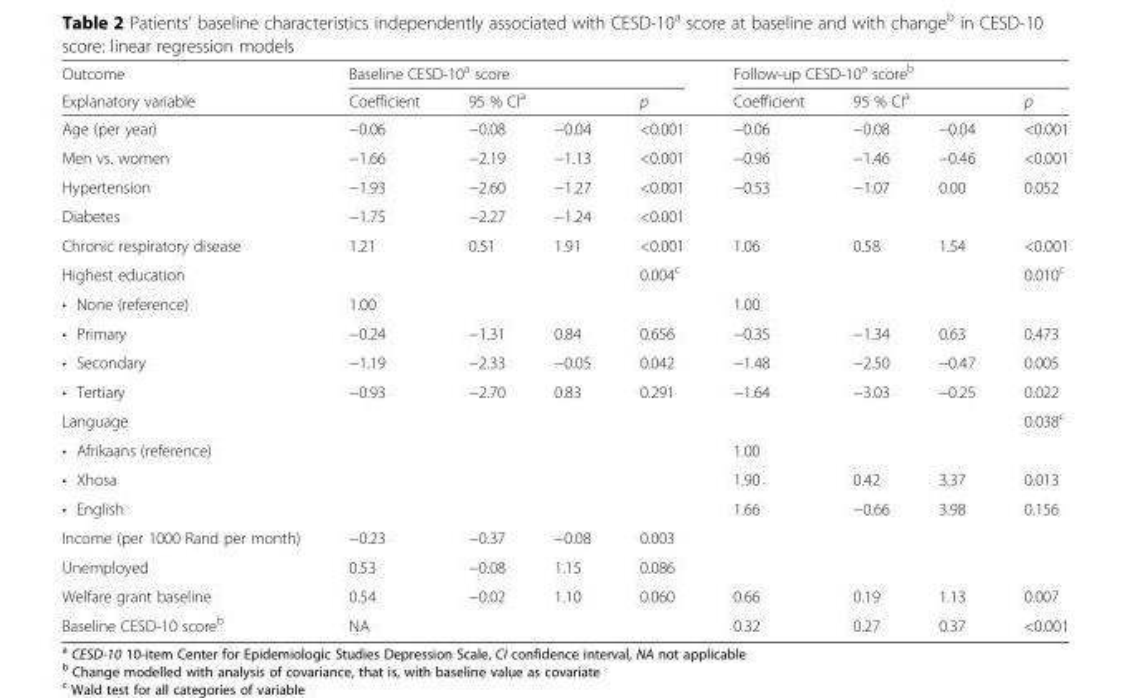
<table><thead><tr><td rowspan="3">Outcome Explanatory variable Age (per year)</td><td colspan="4">Baseline CESD-10<sup>a</sup> score</td><td colspan="4">Follow-up CESD-10<sup>a</sup> score<sup>b</sup></td></tr><tr><td rowspan="2">Coefficient −0.06</td><td colspan="2">95 % CI<sup>a</sup></td><td rowspan="2">p &lt;0.001</td><td rowspan="2">Coefficient −0.06</td><td colspan="2">95 % CI<sup>a</sup></td><td rowspan="2">p &lt;0.001</td></tr><tr><td>−0.08</td><td>−0.04</td><td>−0.08</td><td>−0.04</td></tr></thead><tbody><tr><td>Men vs. women</td><td>−1.66</td><td>−2.19</td><td>−1.13</td><td>&lt;0.001</td><td>−0.96</td><td>−1.46</td><td>−0.46</td><td>&lt;0.001</td></tr><tr><td>Hypertension</td><td>−1.93</td><td>−2.60</td><td>−1.27</td><td>&lt;0.001</td><td>−0.53</td><td>−1.07</td><td>0.00</td><td>0.052</td></tr><tr><td>Diabetes</td><td>−1.75</td><td>−2.27</td><td>−1.24</td><td>&lt;0.001</td><td></td><td></td><td></td><td></td></tr><tr><td>Chronic respiratory disease</td><td>1.21</td><td>0.51</td><td>1.91</td><td>&lt;0.001</td><td>1.06</td><td>0.58</td><td>1.54</td><td>&lt;0.001</td></tr><tr><td>Highest education</td><td></td><td></td><td></td><td>0.004<sup>c</sup></td><td></td><td></td><td></td><td>0.010<sup>c</sup></td></tr><tr><td>• None (reference)</td><td>1.00</td><td></td><td></td><td></td><td>1.00</td><td></td><td></td><td></td></tr><tr><td>• Primary</td><td>−0.24</td><td>−1.31</td><td>0.84</td><td>0.656</td><td>−0.35</td><td>−1.34</td><td>0.63</td><td>0.473</td></tr><tr><td>• Secondary</td><td>−1.19</td><td>−2.33</td><td>−0.05</td><td>0.042</td><td>−1.48</td><td>−2.50</td><td>−0.47</td><td>0.005</td></tr><tr><td>• Tertiary</td><td>−0.93</td><td>−2.70</td><td>0.83</td><td>0.291</td><td>−1.64</td><td>−3.03</td><td>−0.25</td><td>0.022</td></tr><tr><td>Language</td><td></td><td></td><td></td><td></td><td></td><td></td><td></td><td>0.038<sup>c</sup></td></tr><tr><td>• Afrikaans (reference)</td><td></td><td></td><td></td><td></td><td>1.00</td><td></td><td></td><td></td></tr><tr><td>• Xhosa</td><td></td><td></td><td></td><td></td><td>1.90</td><td>0.42</td><td>3.37</td><td>0.013</td></tr><tr><td>• English</td><td></td><td></td><td></td><td></td><td>1.66</td><td>−0.66</td><td>3.98</td><td>0.156</td></tr><tr><td>Income (per 1000 Rand per month)</td><td>−0.23</td><td>−0.37</td><td>−0.08</td><td>0.003</td><td></td><td></td><td></td><td></td></tr><tr><td>Unemployed</td><td>0.53</td><td>−0.08</td><td>1.15</td><td>0.086</td><td></td><td></td><td></td><td></td></tr><tr><td>Welfare grant baseline</td><td>0.54</td><td>−0.02</td><td>1.10</td><td>0.060</td><td>0.66</td><td>0.19</td><td>1.13</td><td>0.007</td></tr><tr><td>Baseline CESD-10 score<sup>b</sup></td><td>NA</td><td></td><td></td><td></td><td>0.32</td><td>0.27</td><td>0.37</td><td>&lt;0.001</td></tr></tbody></table>